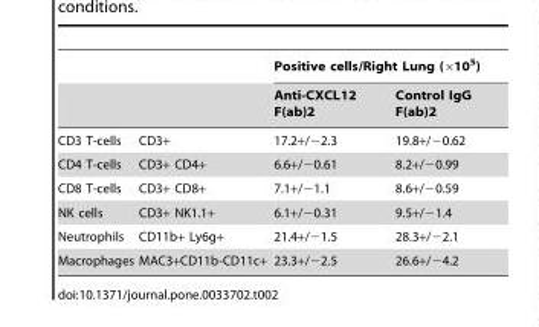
<table><thead><tr><td rowspan="2"></td><td rowspan="2"></td><td colspan="2">Positive cells/Right Lung (×10<sup>5</sup>)</td></tr><tr><td>Anti-CXCL12 F(ab)2</td><td>Control IgG F(ab)2</td></tr></thead><tbody><tr><td>CD3 T-cells</td><td>CD3+</td><td>17.2+/−2.3</td><td>19.8+/−0.62</td></tr><tr><td>CD4 T-cells</td><td>CD3+ CD4+</td><td>6.6+/−0.61</td><td>8.2+/−0.99</td></tr><tr><td>CD8 T-cells</td><td>CD3+ CD8+</td><td>7.1+/−1.1</td><td>8.6+/−0.59</td></tr><tr><td>NK cells</td><td>CD3+ NK1.1+</td><td>6.1+/−0.31</td><td>9.5+/−1.4</td></tr><tr><td>Neutrophils</td><td>CD11b+ Ly6g+</td><td>21.4+/−1.5</td><td>28.3+/−2.1</td></tr><tr><td>Macrophages</td><td>MAC3+CD11b-CD11c+</td><td>23.3+/−2.5</td><td>26.6+/−4.2</td></tr></tbody></table>